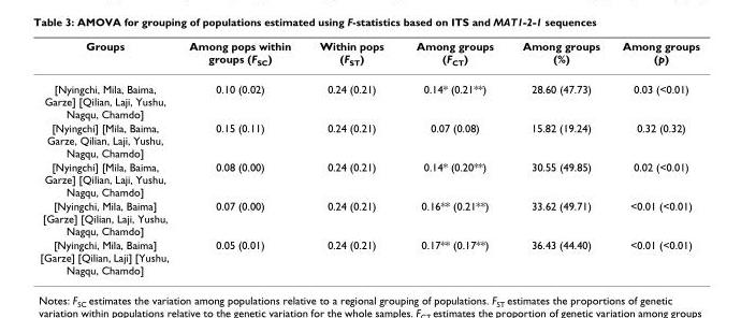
<table><thead><tr><td>Groups</td><td>Among pops within groups (F<sub>SC</sub>)</td><td>Within pops (F<sub>ST</sub>)</td><td>Among groups (F<sub>CT</sub>)</td><td>Among groups (%)</td><td>Among groups (p)</td></tr></thead><tbody><tr><td>[Nyingchi, Mila, Baima, Garze] [Qilian, Laji, Yushu, Nagqu, Chamdo]</td><td>0.10 (0.02)</td><td>0.24 (0.21)</td><td>0.14* (0.21**)</td><td>28.60 (47.73)</td><td>0.03 (&lt;0.01)</td></tr><tr><td>[Nyingchi] [Mila, Baima, Garze, Qilian, Laji, Yushu, Nagqu, Chamdo]</td><td>0.15 (0.11)</td><td>0.24 (0.21)</td><td>0.07 (0.08)</td><td>15.82 (19.24)</td><td>0.32 (0.32)</td></tr><tr><td>[Nyingchi] [Mila, Baima, Garze] [Qilian, Laji, Yushu, Nagqu, Chamdo]</td><td>0.08 (0.00)</td><td>0.24 (0.21)</td><td>0.14* (0.20**)</td><td>30.55 (49.85)</td><td>0.02 (&lt;0.01)</td></tr><tr><td>[Nyingchi, Mila, Baima] [Garze] [Qilian, Laji, Yushu, Nagqu, Chamdo]</td><td>0.07 (0.00)</td><td>0.24 (0.21)</td><td>0.16** (0.21**)</td><td>33.62 (49.71)</td><td>&lt;0.01 (&lt;0.01)</td></tr><tr><td>[Nyingchi, Mila, Baima] [Garze] [Qilian, Laji] [Yushu, Nagqu, Chamdo]</td><td>0.05 (0.01)</td><td>0.24 (0.21)</td><td>0.17** (0.17**)</td><td>36.43 (44.40)</td><td>&lt;0.01 (&lt;0.01)</td></tr></tbody></table>